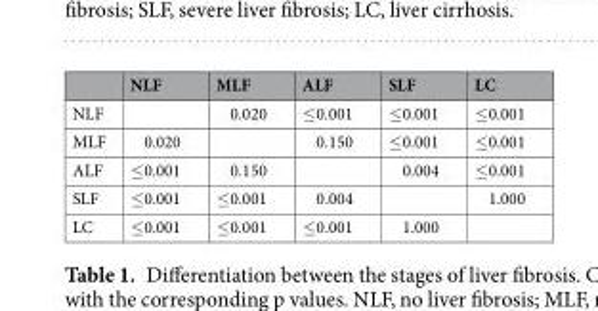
<table><thead><tr><td></td><td>NLF</td><td>MLF</td><td>ALF</td><td>SLF</td><td>LC</td></tr></thead><tbody><tr><td>NLF</td><td></td><td>0.020</td><td>≤0.001</td><td>≤0.001</td><td>≤0.001</td></tr><tr><td>MLF</td><td>0.020</td><td></td><td>0.150</td><td>≤0.001</td><td>≤0.001</td></tr><tr><td>ALF</td><td>≤0.001</td><td>0.150</td><td></td><td>0.004</td><td>≤0.001</td></tr><tr><td>SLF</td><td>≤0.001</td><td>≤0.001</td><td>0.004</td><td></td><td>1.000</td></tr><tr><td>LC</td><td>≤0.001</td><td>≤0.001</td><td>≤0.001</td><td>1.000</td><td></td></tr></tbody></table>